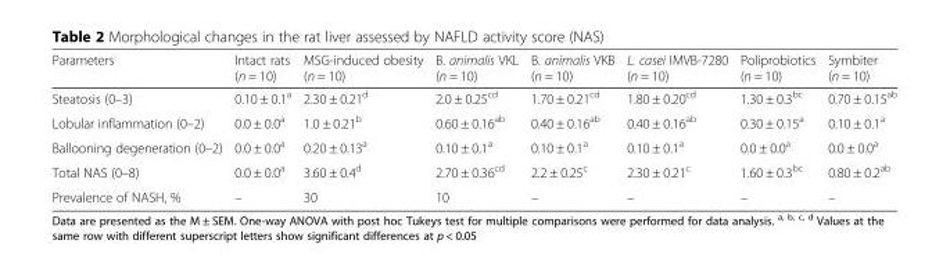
<table><thead><tr><td>Parameters</td><td>Intact rats (n = 10)</td><td>MSG-induced obesity (n = 10)</td><td>B. animalis VKL (n = 10)</td><td>B. animalis VKB (n = 10)</td><td>L. casei IMVB-7280 (n = 10)</td><td>Poliprobiotics (n = 10)</td><td>Symbiter (n = 10)</td></tr></thead><tbody><tr><td>Steatosis (0–3)</td><td>0.10 ± 0.1<sup>a</sup></td><td>2.30 ± 0.21<sup>d</sup></td><td>2.0 ± 0.25<sup>cd</sup></td><td>1.70 ± 0.21<sup>cd</sup></td><td>1.80 ± 0.20<sup>cd</sup></td><td>1.30 ± 0.3<sup>bc</sup></td><td>0.70 ± 0.15<sup>ab</sup></td></tr><tr><td>Lobular inflammation (0–2)</td><td>0.0 ± 0.0<sup>a</sup></td><td>1.0 ± 0.21<sup>b</sup></td><td>0.60 ± 0.16<sup>ab</sup></td><td>0.40 ± 0.16<sup>ab</sup></td><td>0.40 ± 0.16<sup>ab</sup></td><td>0.30 ± 0.15<sup>a</sup></td><td>0.10 ± 0.1<sup>a</sup></td></tr><tr><td>Ballooning degeneration (0–2)</td><td>0.0 ± 0.0<sup>a</sup></td><td>0.20 ± 0.13<sup>a</sup></td><td>0.10 ± 0.1<sup>a</sup></td><td>0.10 ± 0.1<sup>a</sup></td><td>0.10 ± 0.1<sup>a</sup></td><td>0.0 ± 0.0<sup>a</sup></td><td>0.0 ± 0.0<sup>a</sup></td></tr><tr><td>Total NAS (0–8)</td><td>0.0 ± 0.0<sup>a</sup></td><td>3.60 ± 0.4<sup>d</sup></td><td>2.70 ± 0.36<sup>cd</sup></td><td>2.2 ± 0.25<sup>c</sup></td><td>2.30 ± 0.21<sup>c</sup></td><td>1.60 ± 0.3<sup>bc</sup></td><td>0.80 ± 0.2<sup>ab</sup></td></tr><tr><td>Prevalence of NASH, %</td><td>–</td><td>30</td><td>10</td><td>–</td><td>–</td><td>–</td><td>–</td></tr></tbody></table>